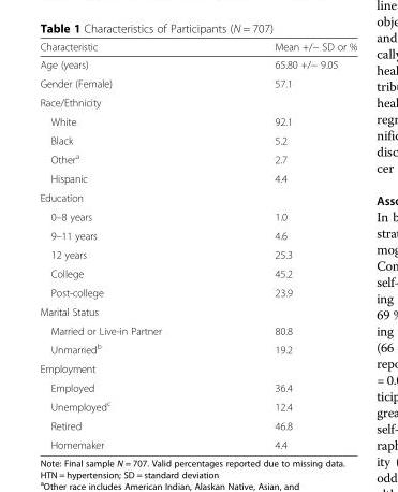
<table><thead><tr><td>Characteristic</td><td>Mean +/− SD or %</td></tr></thead><tbody><tr><td>Age (years)</td><td>65.80 +/− 9.05</td></tr><tr><td>Gender (Female)</td><td>57.1</td></tr><tr><td colspan="2">Race/Ethnicity</td></tr><tr><td>White</td><td>92.1</td></tr><tr><td>Black</td><td>5.2</td></tr><tr><td>Other<sup>a</sup></td><td>2.7</td></tr><tr><td>Hispanic</td><td>4.4</td></tr><tr><td colspan="2">Education</td></tr><tr><td>0–8 years</td><td>1.0</td></tr><tr><td>9–11 years</td><td>4.6</td></tr><tr><td>12 years</td><td>25.3</td></tr><tr><td>College</td><td>45.2</td></tr><tr><td>Post-college</td><td>23.9</td></tr><tr><td colspan="2">Marital Status</td></tr><tr><td>Married or Live-in Partner</td><td>80.8</td></tr><tr><td>Unmarried<sup>b</sup></td><td>19.2</td></tr><tr><td colspan="2">Employment</td></tr><tr><td>Employed</td><td>36.4</td></tr><tr><td>Unemployed<sup>c</sup></td><td>12.4</td></tr><tr><td>Retired</td><td>46.8</td></tr><tr><td>Homemaker</td><td>4.4</td></tr></tbody></table>